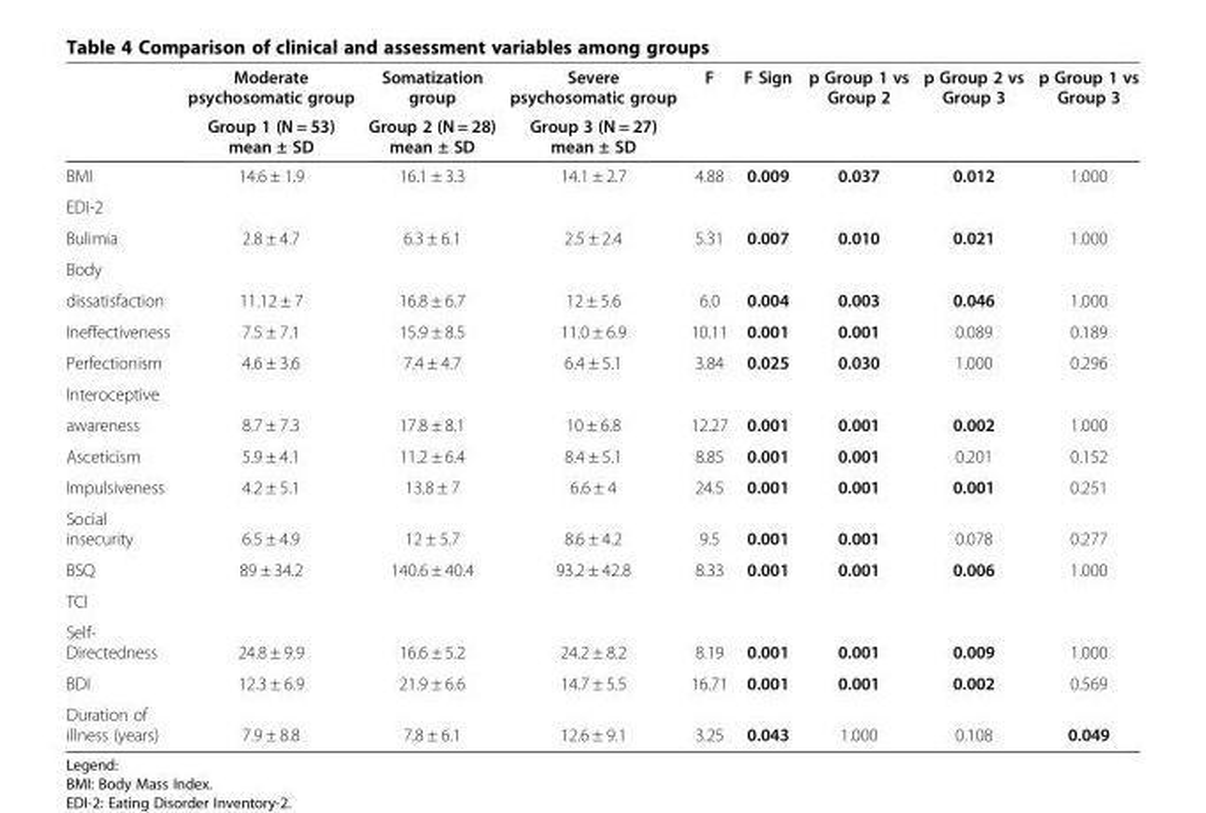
<table><thead><tr><td rowspan="2"></td><td rowspan="2">Moderate psychosomatic group Group 1 (N = 53) mean ± SD</td><td rowspan="2">Somatization group Group 2 (N = 28) mean ± SD</td><td rowspan="2">Severe psychosomatic group Group 3 (N = 27) mean ± SD</td><td rowspan="2">F</td><td rowspan="2">F Sign</td><td rowspan="2">p Group 1 vs Group 2</td><td rowspan="2">p Group 2 vs Group 3</td><td rowspan="2">p Group 1 vs Group 3</td></tr><tr></tr></thead><tbody><tr><td>BMI</td><td>14.6 ± 1.9</td><td>16.1 ± 3.3</td><td>14.1 ± 2.7</td><td>4.88</td><td>0.009</td><td>0.037</td><td>0.012</td><td>1.000</td></tr><tr><td colspan="9">EDI-2</td></tr><tr><td>Bulimia</td><td>2.8 ± 4.7</td><td>6.3 ± 6.1</td><td>2.5 ± 2.4</td><td>5.31</td><td>0.007</td><td>0.010</td><td>0.021</td><td>1.000</td></tr><tr><td colspan="9">Body</td></tr><tr><td>dissatisfaction</td><td>11.12 ± 7</td><td>16.8 ± 6.7</td><td>12 ± 5.6</td><td>6.0</td><td>0.004</td><td>0.003</td><td>0.046</td><td>1.000</td></tr><tr><td>Ineffectiveness</td><td>7.5 ± 7.1</td><td>15.9 ± 8.5</td><td>11.0 ± 6.9</td><td>10.11</td><td>0.001</td><td>0.001</td><td>0.089</td><td>0.189</td></tr><tr><td>Perfectionism</td><td>4.6 ± 3.6</td><td>7.4 ± 4.7</td><td>6.4 ± 5.1</td><td>3.84</td><td>0.025</td><td>0.030</td><td>1.000</td><td>0.296</td></tr><tr><td colspan="9">Interoceptive</td></tr><tr><td>awareness</td><td>8.7 ± 7.3</td><td>17.8 ± 8.1</td><td>10 ± 6.8</td><td>12.27</td><td>0.001</td><td>0.001</td><td>0.002</td><td>1.000</td></tr><tr><td>Asceticism</td><td>5.9 ± 4.1</td><td>11.2 ± 6.4</td><td>8.4 ± 5.1</td><td>8.85</td><td>0.001</td><td>0.001</td><td>0.201</td><td>0.152</td></tr><tr><td>Impulsiveness</td><td>4.2 ± 5.1</td><td>13.8 ± 7</td><td>6.6 ± 4</td><td>24.5</td><td>0.001</td><td>0.001</td><td>0.001</td><td>0.251</td></tr><tr><td>Social insecurity</td><td>6.5 ± 4.9</td><td>12 ± 5.7</td><td>8.6 ± 4.2</td><td>9.5</td><td>0.001</td><td>0.001</td><td>0.078</td><td>0.277</td></tr><tr><td>BSQ</td><td>89 ± 34.2</td><td>140.6 ± 40.4</td><td>93.2 ± 42.8</td><td>8.33</td><td>0.001</td><td>0.001</td><td>0.006</td><td>1.000</td></tr><tr><td colspan="9">TCI</td></tr><tr><td>Self- Directedness</td><td>24.8 ± 9.9</td><td>16.6 ± 5.2</td><td>24.2 ± 8.2</td><td>8.19</td><td>0.001</td><td>0.001</td><td>0.009</td><td>1.000</td></tr><tr><td>BDI</td><td>12.3 ± 6.9</td><td>21.9 ± 6.6</td><td>14.7 ± 5.5</td><td>16.71</td><td>0.001</td><td>0.001</td><td>0.002</td><td>0.569</td></tr><tr><td>Duration of illness (years)</td><td>7.9 ± 8.8</td><td>7.8 ± 6.1</td><td>12.6 ± 9.1</td><td>3.25</td><td>0.043</td><td>1.000</td><td>0.108</td><td>0.049</td></tr></tbody></table>